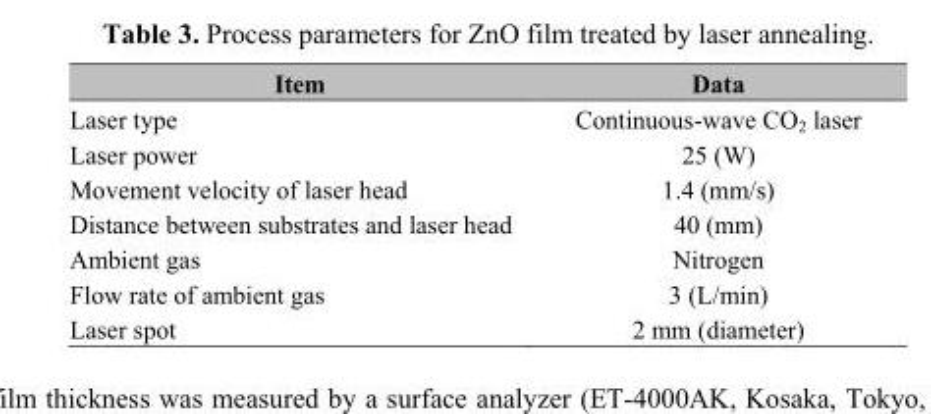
<table><thead><tr><td>Item</td><td>Data</td></tr></thead><tbody><tr><td>Laser type</td><td>Continuous-wave CO<sub>2</sub> laser</td></tr><tr><td>Laser power</td><td>25 (W)</td></tr><tr><td>Movement velocity of laser head</td><td>1.4 (mm/s)</td></tr><tr><td>Distance between substrates and laser head</td><td>40 (mm)</td></tr><tr><td>Ambient gas</td><td>Nitrogen</td></tr><tr><td>Flow rate of ambient gas</td><td>3 (L/min)</td></tr><tr><td>Laser spot</td><td>2 mm (diameter)</td></tr></tbody></table>